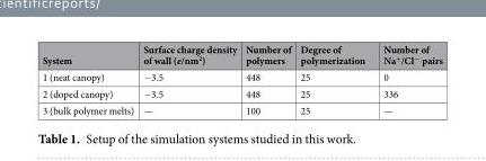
<table><thead><tr><td>System</td><td>Surface charge density of wall (e/nm<sup>2</sup>)</td><td>Number of polymers</td><td>Degree of polymerization</td><td>Number of Na<sup>+</sup>/Cl<sup>−</sup> pairs</td></tr></thead><tbody><tr><td>1 (neat canopy)</td><td>−3.5</td><td>448</td><td>25</td><td>0</td></tr><tr><td>2 (doped canopy)</td><td>−3.5</td><td>448</td><td>25</td><td>336</td></tr><tr><td>3 (bulk polymer melts)</td><td>—</td><td>100</td><td>25</td><td>—</td></tr></tbody></table>